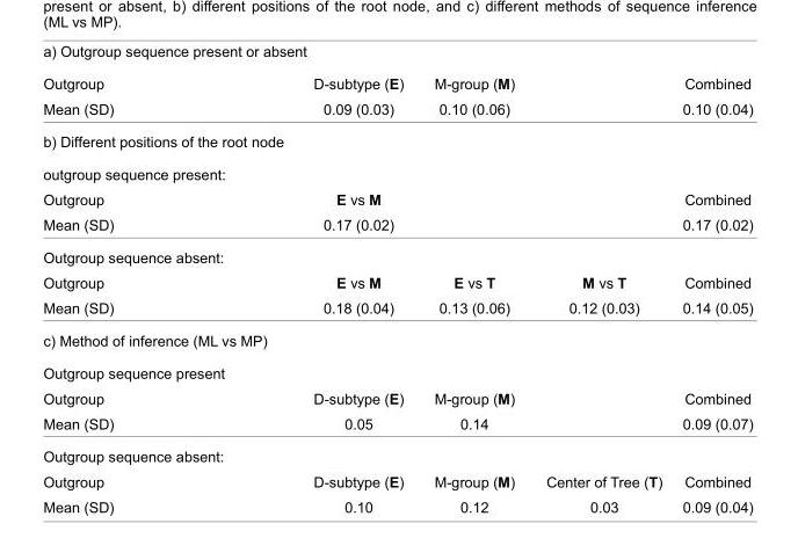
<table><tbody><tr><td colspan="5">a) Outgroup sequence present or absent</td></tr><tr><td>Outgroup</td><td>D-subtype (E)</td><td>M-group (M)</td><td></td><td>Combined</td></tr><tr><td>Mean (SD)</td><td>0.09 (0.03)</td><td>0.10 (0.06)</td><td></td><td>0.10 (0.04)</td></tr><tr><td colspan="5">b) Different positions of the root node</td></tr><tr><td colspan="5">outgroup sequence present:</td></tr><tr><td>Outgroup</td><td>E vs M</td><td></td><td></td><td>Combined</td></tr><tr><td>Mean (SD)</td><td>0.17 (0.02)</td><td></td><td></td><td>0.17 (0.02)</td></tr><tr><td colspan="5">Outgroup sequence absent:</td></tr><tr><td>Outgroup</td><td>E vs M</td><td>E vs T</td><td>M vs T</td><td>Combined</td></tr><tr><td>Mean (SD)</td><td>0.18 (0.04)</td><td>0.13 (0.06)</td><td>0.12 (0.03)</td><td>0.14 (0.05)</td></tr><tr><td colspan="5">c) Method of inference (ML vs MP)</td></tr><tr><td colspan="5">Outgroup sequence present</td></tr><tr><td>Outgroup</td><td>D-subtype (E)</td><td>M-group (M)</td><td></td><td>Combined</td></tr><tr><td>Mean (SD)</td><td>0.05</td><td>0.14</td><td></td><td>0.09 (0.07)</td></tr><tr><td colspan="5">Outgroup sequence absent:</td></tr><tr><td>Outgroup</td><td>D-subtype (E)</td><td>M-group (M)</td><td>Center of Tree (T)</td><td>Combined</td></tr><tr><td>Mean (SD)</td><td>0.10</td><td>0.12</td><td>0.03</td><td>0.09 (0.04)</td></tr></tbody></table>